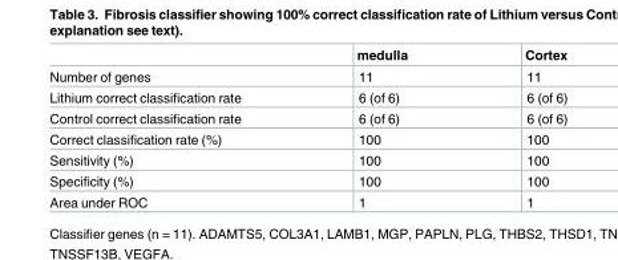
<table><thead><tr><td></td><td>medulla</td><td>Cortex</td></tr></thead><tbody><tr><td>Number of genes</td><td>11</td><td>11</td></tr><tr><td>Lithium correct classification rate</td><td>6 (of 6)</td><td>6 (of 6)</td></tr><tr><td>Control correct classification rate</td><td>6 (of 6)</td><td>6 (of 6)</td></tr><tr><td>Correct classification rate (%)</td><td>100</td><td>100</td></tr><tr><td>Sensitivity (%)</td><td>100</td><td>100</td></tr><tr><td>Specificity (%)</td><td>100</td><td>100</td></tr><tr><td>Area under ROC</td><td>1</td><td>1</td></tr></tbody></table>